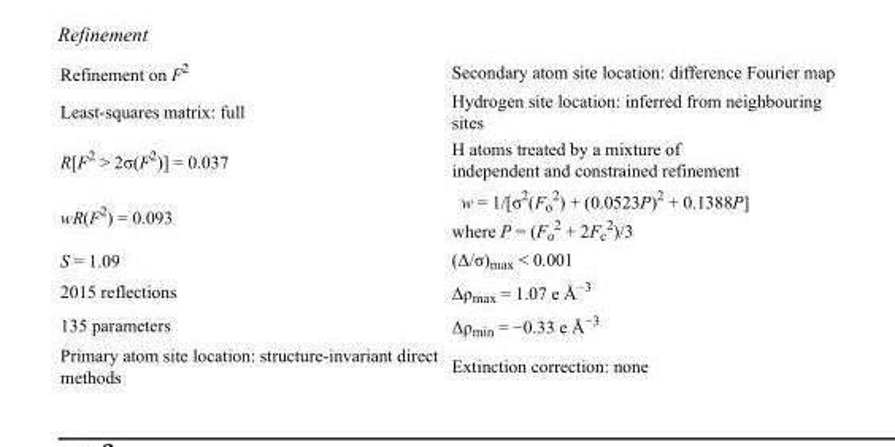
<table><tbody><tr><td>Refinement on F<sup>2</sup></td><td>Secondary atom site location: difference Fourier map</td></tr><tr><td>Least-squares matrix: full</td><td>Hydrogen site location: inferred from neighbouring sites</td></tr><tr><td>R[F<sup>2</sup> &gt; 2σ(F<sup>2</sup>)] = 0.037</td><td>H atoms treated by a mixture of independent and constrained refinement</td></tr><tr><td>wR(F<sup>2</sup>) = 0.093</td><td>w = 1/[σ<sup>2</sup>(F<sub>o</sub> <sup>2</sup>) + (0.0523P)<sup>2</sup> + 0.1388P] where P = (F<sub>o</sub> <sup>2</sup> + 2F<sub>c</sub> <sup>2</sup>)/3</td></tr><tr><td>S = 1.09</td><td>(Δ/σ)<sub>max</sub> &lt; 0.001</td></tr><tr><td>2015 reflections</td><td>Δρ<sub>max</sub> = 1.07 e Å<sup>−3</sup></td></tr><tr><td>135 parameters</td><td>Δρ<sub>min</sub> = −0.33 e Å<sup>−3</sup></td></tr><tr><td>Primary atom site location: structure-invariant direct methods</td><td>Extinction correction: none</td></tr></tbody></table>